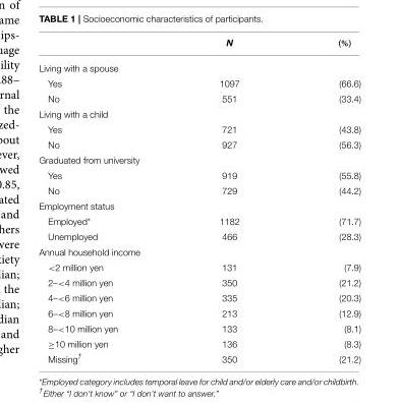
<table><thead><tr><td></td><td>N</td><td>(%)</td></tr></thead><tbody><tr><td colspan="3">Living with a spouse</td></tr><tr><td>Yes</td><td>1097</td><td>(66.6)</td></tr><tr><td>No</td><td>551</td><td>(33.4)</td></tr><tr><td colspan="3">Living with a child</td></tr><tr><td>Yes</td><td>721</td><td>(43.8)</td></tr><tr><td>No</td><td>927</td><td>(56.3)</td></tr><tr><td colspan="3">Graduated from university</td></tr><tr><td>Yes</td><td>919</td><td>(55.8)</td></tr><tr><td>No</td><td>729</td><td>(44.2)</td></tr><tr><td colspan="3">Employment status</td></tr><tr><td>Employed*</td><td>1182</td><td>(71.7)</td></tr><tr><td>Unemployed</td><td>466</td><td>(28.3)</td></tr><tr><td colspan="3">Annual household income</td></tr><tr><td>&lt;2 million yen</td><td>131</td><td>(7.9)</td></tr><tr><td>2–&lt;4 million yen</td><td>350</td><td>(21.2)</td></tr><tr><td>4–&lt;6 million yen</td><td>335</td><td>(20.3)</td></tr><tr><td>6–&lt;8 million yen</td><td>213</td><td>(12.9)</td></tr><tr><td>8–&lt;10 million yen</td><td>133</td><td>(8.1)</td></tr><tr><td>≥10 million yen</td><td>136</td><td>(8.3)</td></tr><tr><td>Missing<sup>†</sup></td><td>350</td><td>(21.2)</td></tr></tbody></table>